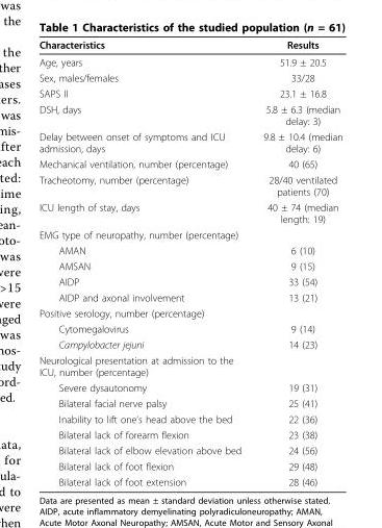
<table><thead><tr><td>Characteristics</td><td>Results</td></tr></thead><tbody><tr><td>Age, years</td><td>51.9 ± 20.5</td></tr><tr><td>Sex, males/females</td><td>33/28</td></tr><tr><td>SAPS II</td><td>23.1 ± 16.8</td></tr><tr><td>DSH, days</td><td>5.8 ± 6.3 (median delay: 3)</td></tr><tr><td>Delay between onset of symptoms and ICU admission, days</td><td>9.8 ± 10.4 (median delay: 6)</td></tr><tr><td>Mechanical ventilation, number (percentage)</td><td>40 (65)</td></tr><tr><td>Tracheotomy, number (percentage)</td><td>28/40 ventilated patients (70)</td></tr><tr><td>ICU length of stay, days</td><td>40 ± 74 (median length: 19)</td></tr><tr><td colspan="2">EMG type of neuropathy, number (percentage)</td></tr><tr><td>AMAN</td><td>6 (10)</td></tr><tr><td>AMSAN</td><td>9 (15)</td></tr><tr><td>AIDP</td><td>33 (54)</td></tr><tr><td>AIDP and axonal involvement</td><td>13 (21)</td></tr><tr><td colspan="2">Positive serology, number (percentage)</td></tr><tr><td>Cytomegalovirus</td><td>9 (14)</td></tr><tr><td>Campylobacter jejuni</td><td>14 (23)</td></tr><tr><td colspan="2">Neurological presentation at admission to the ICU, number (percentage)</td></tr><tr><td>Severe dysautonomy</td><td>19 (31)</td></tr><tr><td>Bilateral facial nerve palsy</td><td>25 (41)</td></tr><tr><td>Inability to lift one’s head above the bed</td><td>22 (36)</td></tr><tr><td>Bilateral lack of forearm flexion</td><td>23 (38)</td></tr><tr><td>Bilateral lack of elbow elevation above bed</td><td>24 (56)</td></tr><tr><td>Bilateral lack of foot flexion</td><td>29 (48)</td></tr><tr><td>Bilateral lack of foot extension</td><td>28 (46)</td></tr></tbody></table>